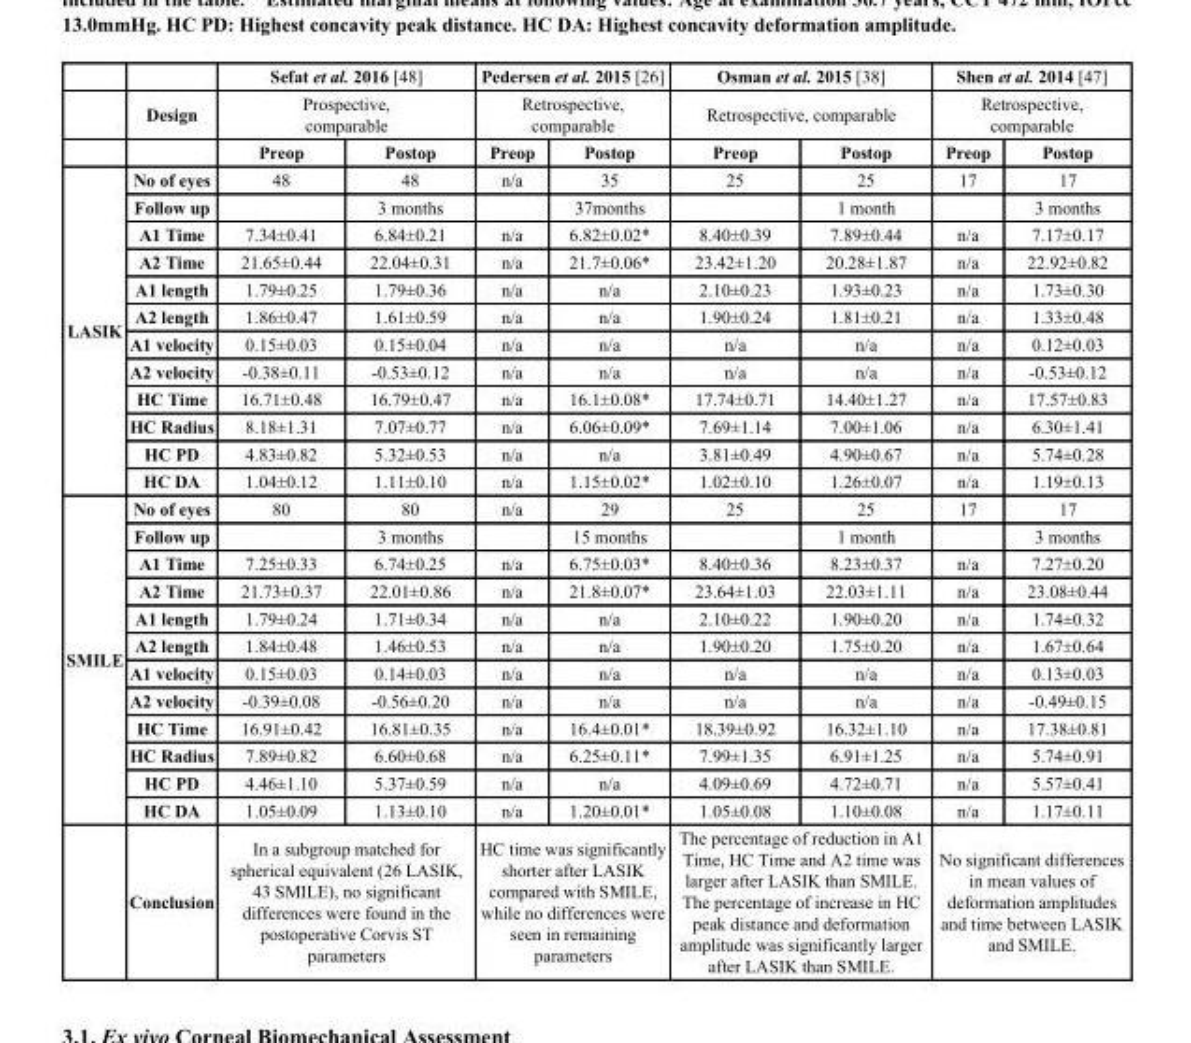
<table><thead><tr><td rowspan="3"></td><td rowspan="3">Design</td><td rowspan="2" colspan="2">Sefat et al. 2016 [48] Prospective, comparable</td><td rowspan="2" colspan="2">Pedersen et al. 2015 [26] Retrospective, comparable</td><td rowspan="2" colspan="2">Osman et al. 2015 [38] Retrospective, comparable</td><td rowspan="2" colspan="2">Shen et al. 2014 [47] Retrospective, comparable</td></tr><tr></tr><tr><td>Preop</td><td>Postop</td><td>Preop</td><td>Postop</td><td>Preop</td><td>Postop</td><td>Preop</td><td>Postop</td></tr></thead><tbody><tr><td rowspan="12">LASIK</td><td>No of eyes</td><td>48</td><td>48</td><td>n/a</td><td>35</td><td>25</td><td>25</td><td>17</td><td>17</td></tr><tr><td>Follow up</td><td></td><td>3 months</td><td></td><td>37months</td><td></td><td>1 month</td><td></td><td>3 months</td></tr><tr><td>A1 Time</td><td>7.34±0.41</td><td>6.84±0.21</td><td>n/a</td><td>6.82±0.02*</td><td>8.40±0.39</td><td>7.89±0.44</td><td>n/a</td><td>7.17±0.17</td></tr><tr><td>A2 Time</td><td>21.65±0.44</td><td>22.04±0.31</td><td>n/a</td><td>21.7±0.06*</td><td>23.42±1.20</td><td>20.28±1.87</td><td>n/a</td><td>22.92±0.82</td></tr><tr><td>A1 length</td><td>1.79±0.25</td><td>1.79±0.36</td><td>n/a</td><td>n/a</td><td>2.10±0.23</td><td>1.93±0.23</td><td>n/a</td><td>1.73±0.30</td></tr><tr><td>A2 length</td><td>1.86±0.47</td><td>1.61±0.59</td><td>n/a</td><td>n/a</td><td>1.90±0.24</td><td>1.81±0.21</td><td>n/a</td><td>1.33±0.48</td></tr><tr><td>A1 velocity</td><td>0.15±0.03</td><td>0.15±0.04</td><td>n/a</td><td>n/a</td><td>n/a</td><td>n/a</td><td>n/a</td><td>0.12±0.03</td></tr><tr><td>A2 velocity</td><td>-0.38±0.11</td><td>-0.53±0.12</td><td>n/a</td><td>n/a</td><td>n/a</td><td>n/a</td><td>n/a</td><td>-0.53±0.12</td></tr><tr><td>HC Time</td><td>16.71±0.48</td><td>16.79±0.47</td><td>n/a</td><td>16.1±0.08*</td><td>17.74±0.71</td><td>14.40±1.27</td><td>n/a</td><td>17.57±0.83</td></tr><tr><td>HC Radius</td><td>8.18±1.31</td><td>7.07±0.77</td><td>n/a</td><td>6.06±0.09*</td><td>7.69±1.14</td><td>7.00±1.06</td><td>n/a</td><td>6.30±1.41</td></tr><tr><td>HC PD</td><td>4.83±0.82</td><td>5.32±0.53</td><td>n/a</td><td>n/a</td><td>3.81±0.49</td><td>4.90±0.67</td><td>n/a</td><td>5.74±0.28</td></tr><tr><td>HC DA</td><td>1.04±0.12</td><td>1.11±0.10</td><td>n/a</td><td>1.15±0.02*</td><td>1.02±0.10</td><td>1.26±0.07</td><td>n/a</td><td>1.19±0.13</td></tr><tr><td rowspan="13">SMILE</td><td>No of eyes</td><td>80</td><td>80</td><td>n/a</td><td>29</td><td>25</td><td>25</td><td>17</td><td>17</td></tr><tr><td>Follow up</td><td></td><td>3 months</td><td></td><td>15 months</td><td></td><td>1 month</td><td></td><td>3 months</td></tr><tr><td>A1 Time</td><td>7.25±0.33</td><td>6.74±0.25</td><td>n/a</td><td>6.75±0.03*</td><td>8.40±0.36</td><td>8.23±0.37</td><td>n/a</td><td>7.27±0.20</td></tr><tr><td>A2 Time</td><td>21.73±0.37</td><td>22.01±0.86</td><td>n/a</td><td>21.8±0.07*</td><td>23.64±1.03</td><td>22.03±1.11</td><td>n/a</td><td>23.08±0.44</td></tr><tr><td>A1 length</td><td>1.79±0.24</td><td>1.71±0.34</td><td>n/a</td><td>n/a</td><td>2.10±0.22</td><td>1.90±0.20</td><td>n/a</td><td>1.74±0.32</td></tr><tr><td>A2 length</td><td>1.84±0.48</td><td>1.46±0.53</td><td>n/a</td><td>n/a</td><td>1.90±0.20</td><td>1.75±0.20</td><td>n/a</td><td>1.67±0.64</td></tr><tr><td>A1 velocity</td><td>0.15±0.03</td><td>0.14±0.03</td><td>n/a</td><td>n/a</td><td>n/a</td><td>n/a</td><td>n/a</td><td>0.13±0.03</td></tr><tr><td>A2 velocity</td><td>-0.39±0.08</td><td>-0.56±0.20</td><td>n/a</td><td>n/a</td><td>n/a</td><td>n/a</td><td>n/a</td><td>-0.49±0.15</td></tr><tr><td>HC Time</td><td>16.91±0.42</td><td>16.81±0.35</td><td>n/a</td><td>16.4±0.01*</td><td>18.39±0.92</td><td>16.32±1.10</td><td>n/a</td><td>17.38±0.81</td></tr><tr><td>HC Radius</td><td>7.89±0.82</td><td>6.60±0.68</td><td>n/a</td><td>6.25±0.11*</td><td>7.99±1.35</td><td>6.91±1.25</td><td>n/a</td><td>5.74±0.91</td></tr><tr><td>HC PD</td><td>4.46±1.10</td><td>5.37±0.59</td><td>n/a</td><td>n/a</td><td>4.09±0.69</td><td>4.72±0.71</td><td>n/a</td><td>5.57±0.41</td></tr><tr><td>HC DA</td><td>1.05±0.09</td><td>1.13±0.10</td><td>n/a</td><td>1.20±0.01*</td><td>1.05±0.08</td><td>1.10±0.08</td><td>n/a</td><td>1.17±0.11</td></tr><tr><td>Conclusion</td><td colspan="2">In a subgroup matched for spherical equivalent (26 LASIK, 43 SMILE), no significant differences were found in the postoperative Corvis ST parameters</td><td colspan="2">HC time was significantly shorter after LASIK compared with SMILE, while no differences were seen in remaining parameters</td><td colspan="2">The percentage of reduction in A1 Time, HC Time and A2 time was larger after LASIK than SMILE. The percentage of increase in HC peak distance and deformation amplitude was significantly larger after LASIK than SMILE.</td><td colspan="2">No significant differences in mean values of deformation amplitudes and time between LASIK and SMILE.</td></tr></tbody></table>